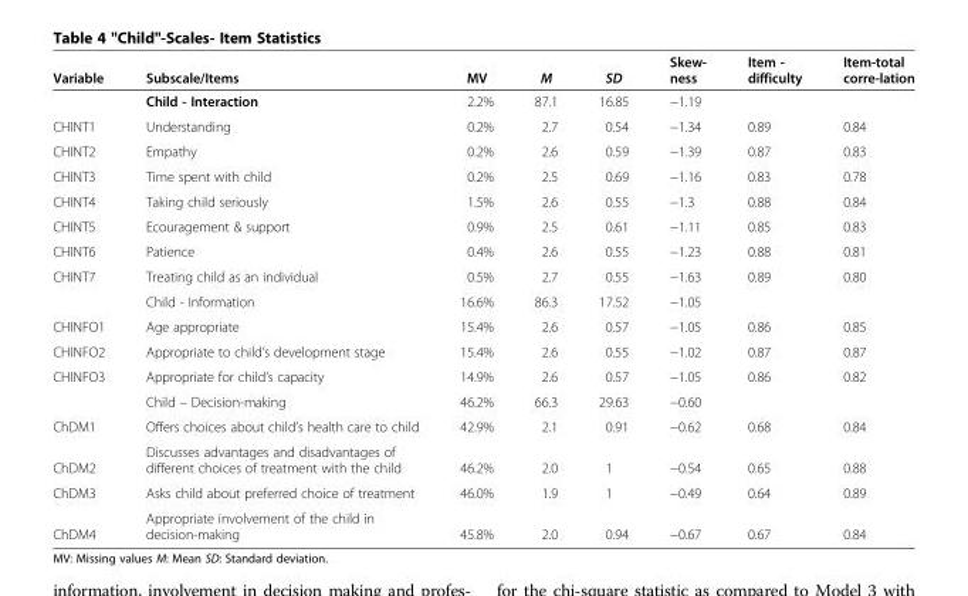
<table><thead><tr><td>Variable</td><td>Subscale/Items</td><td>MV</td><td>M</td><td>SD</td><td>Skew- ness</td><td>Item - difficulty</td><td>Item-total corre-lation</td></tr></thead><tbody><tr><td></td><td>Child - Interaction</td><td>2.2%</td><td>87.1</td><td>16.85</td><td>−1.19</td><td></td><td></td></tr><tr><td>CHINT1</td><td>Understanding</td><td>0.2%</td><td>2.7</td><td>0.54</td><td>−1.34</td><td>0.89</td><td>0.84</td></tr><tr><td>CHINT2</td><td>Empathy</td><td>0.2%</td><td>2.6</td><td>0.59</td><td>−1.39</td><td>0.87</td><td>0.83</td></tr><tr><td>CHINT3</td><td>Time spent with child</td><td>0.2%</td><td>2.5</td><td>0.69</td><td>−1.16</td><td>0.83</td><td>0.78</td></tr><tr><td>CHINT4</td><td>Taking child seriously</td><td>1.5%</td><td>2.6</td><td>0.55</td><td>−1.3</td><td>0.88</td><td>0.84</td></tr><tr><td>CHINT5</td><td>Ecouragement &amp; support</td><td>0.9%</td><td>2.5</td><td>0.61</td><td>−1.11</td><td>0.85</td><td>0.83</td></tr><tr><td>CHINT6</td><td>Patience</td><td>0.4%</td><td>2.6</td><td>0.55</td><td>−1.23</td><td>0.88</td><td>0.81</td></tr><tr><td rowspan="2">CHINT7</td><td>Treating child as an individual</td><td>0.5%</td><td>2.7</td><td>0.55</td><td>−1.63</td><td>0.89</td><td>0.80</td></tr><tr><td>Child - Information</td><td>16.6%</td><td>86.3</td><td>17.52</td><td>−1.05</td><td></td><td></td></tr><tr><td>CHINFO1</td><td>Age appropriate</td><td>15.4%</td><td>2.6</td><td>0.57</td><td>−1.05</td><td>0.86</td><td>0.85</td></tr><tr><td>CHINFO2</td><td>Appropriate to child’s development stage</td><td>15.4%</td><td>2.6</td><td>0.55</td><td>−1.02</td><td>0.87</td><td>0.87</td></tr><tr><td rowspan="2">CHINFO3</td><td>Appropriate for child’s capacity</td><td>14.9%</td><td>2.6</td><td>0.57</td><td>−1.05</td><td>0.86</td><td>0.82</td></tr><tr><td>Child – Decision-making</td><td>46.2%</td><td>66.3</td><td>29.63</td><td>−0.60</td><td></td><td></td></tr><tr><td>ChDM1</td><td>Offers choices about child’s health care to child</td><td>42.9%</td><td>2.1</td><td>0.91</td><td>−0.62</td><td>0.68</td><td>0.84</td></tr><tr><td>ChDM2</td><td>Discusses advantages and disadvantages of different choices of treatment with the child</td><td>46.2%</td><td>2.0</td><td>1</td><td>−0.54</td><td>0.65</td><td>0.88</td></tr><tr><td>ChDM3</td><td>Asks child about preferred choice of treatment</td><td>46.0%</td><td>1.9</td><td>1</td><td>−0.49</td><td>0.64</td><td>0.89</td></tr><tr><td>ChDM4</td><td>Appropriate involvement of the child in decision-making</td><td>45.8%</td><td>2.0</td><td>0.94</td><td>−0.67</td><td>0.67</td><td>0.84</td></tr></tbody></table>